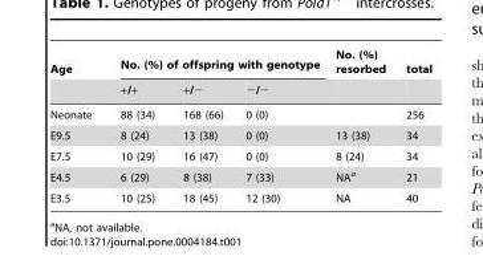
<table><thead><tr><td rowspan="2">Age</td><td colspan="3">No. (%) of offspring with genotype</td><td rowspan="2">No. (%) resorbed</td><td rowspan="2">total</td></tr><tr><td>+/+</td><td>+/−</td><td>−/−</td></tr></thead><tbody><tr><td>Neonate</td><td>88 (34)</td><td>168 (66)</td><td>0 (0)</td><td></td><td>256</td></tr><tr><td>E9.5</td><td>8 (24)</td><td>13 (38)</td><td>0 (0)</td><td>13 (38)</td><td>34</td></tr><tr><td>E7.5</td><td>10 (29)</td><td>16 (47)</td><td>0 (0)</td><td>8 (24)</td><td>34</td></tr><tr><td>E4.5</td><td>6 (29)</td><td>8 (38)</td><td>7 (33)</td><td>NA<sup>a</sup></td><td>21</td></tr><tr><td>E3.5</td><td>10 (25)</td><td>18 (45)</td><td>12 (30)</td><td>NA</td><td>40</td></tr></tbody></table>